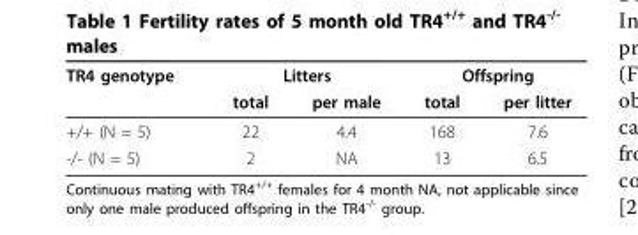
<table><thead><tr><td rowspan="2">TR4 genotype</td><td colspan="2">Litters</td><td colspan="2">Offspring</td></tr><tr><td>total</td><td>per male</td><td>total</td><td>per litter</td></tr></thead><tbody><tr><td>+/+ (N = 5)</td><td>22</td><td>4.4</td><td>168</td><td>7.6</td></tr><tr><td>-/- (N = 5)</td><td>2</td><td>NA</td><td>13</td><td>6.5</td></tr></tbody></table>